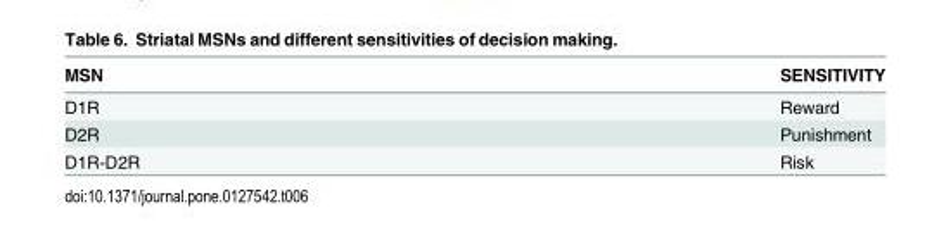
<table><thead><tr><td>MSN</td><td>SENSITIVITY</td></tr></thead><tbody><tr><td>D1R</td><td>Reward</td></tr><tr><td>D2R</td><td>Punishment</td></tr><tr><td>D1R-D2R</td><td>Risk</td></tr></tbody></table>